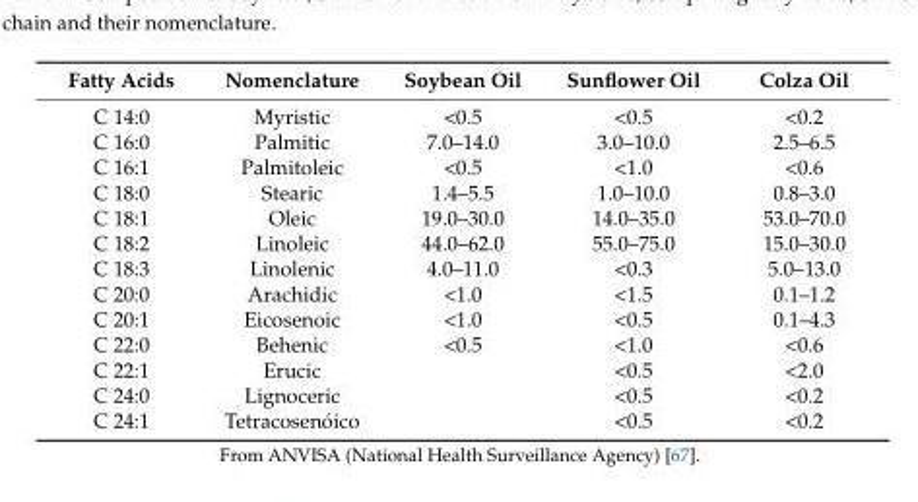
<table><thead><tr><td>Fatty Acids</td><td>Nomenclature</td><td>Soybean Oil</td><td>Sunflower Oil</td><td>Colza Oil</td></tr></thead><tbody><tr><td>C 14:0</td><td>Myristic</td><td>&lt;0.5</td><td>&lt;0.5</td><td>&lt;0.2</td></tr><tr><td>C 16:0</td><td>Palmitic</td><td>7.0–14.0</td><td>3.0–10.0</td><td>2.5–6.5</td></tr><tr><td>C 16:1</td><td>Palmitoleic</td><td>&lt;0.5</td><td>&lt;1.0</td><td>&lt;0.6</td></tr><tr><td>C 18:0</td><td>Stearic</td><td>1.4–5.5</td><td>1.0–10.0</td><td>0.8–3.0</td></tr><tr><td>C 18:1</td><td>Oleic</td><td>19.0–30.0</td><td>14.0–35.0</td><td>53.0–70.0</td></tr><tr><td>C 18:2</td><td>Linoleic</td><td>44.0–62.0</td><td>55.0–75.0</td><td>15.0–30.0</td></tr><tr><td>C 18:3</td><td>Linolenic</td><td>4.0–11.0</td><td>&lt;0.3</td><td>5.0–13.0</td></tr><tr><td>C 20:0</td><td>Arachidic</td><td>&lt;1.0</td><td>&lt;1.5</td><td>0.1–1.2</td></tr><tr><td>C 20:1</td><td>Eicosenoic</td><td>&lt;1.0</td><td>&lt;0.5</td><td>0.1–4.3</td></tr><tr><td>C 22:0</td><td>Behenic</td><td>&lt;0.5</td><td>&lt;1.0</td><td>&lt;0.6</td></tr><tr><td>C 22:1</td><td>Erucic</td><td></td><td>&lt;0.5</td><td>&lt;2.0</td></tr><tr><td>C 24:0</td><td>Lignoceric</td><td></td><td>&lt;0.5</td><td>&lt;0.2</td></tr><tr><td>C 24:1</td><td>Tetracosenóico</td><td></td><td>&lt;0.5</td><td>&lt;0.2</td></tr></tbody></table>